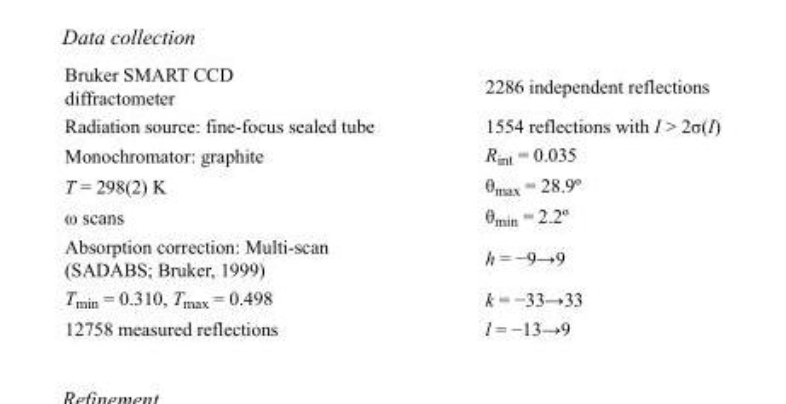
<table><tbody><tr><td>Bruker SMART CCD diffractometer</td><td>2286 independent reflections</td></tr><tr><td>Radiation source: fine-focus sealed tube</td><td>1554 reflections with I &gt; 2σ(I)</td></tr><tr><td>Monochromator: graphite</td><td>R<sub>int</sub> = 0.035</td></tr><tr><td>T = 298(2) K</td><td>θ<sub>max</sub> = 28.9º</td></tr><tr><td>ω scans</td><td>θ<sub>min</sub> = 2.2º</td></tr><tr><td>Absorption correction: Multi-scan (SADABS; Bruker, 1999)</td><td>h = −9→9</td></tr><tr><td>T<sub>min</sub> = 0.310, T<sub>max</sub> = 0.498</td><td>k = −33→33</td></tr><tr><td>12758 measured reflections</td><td>l = −13→9</td></tr></tbody></table>